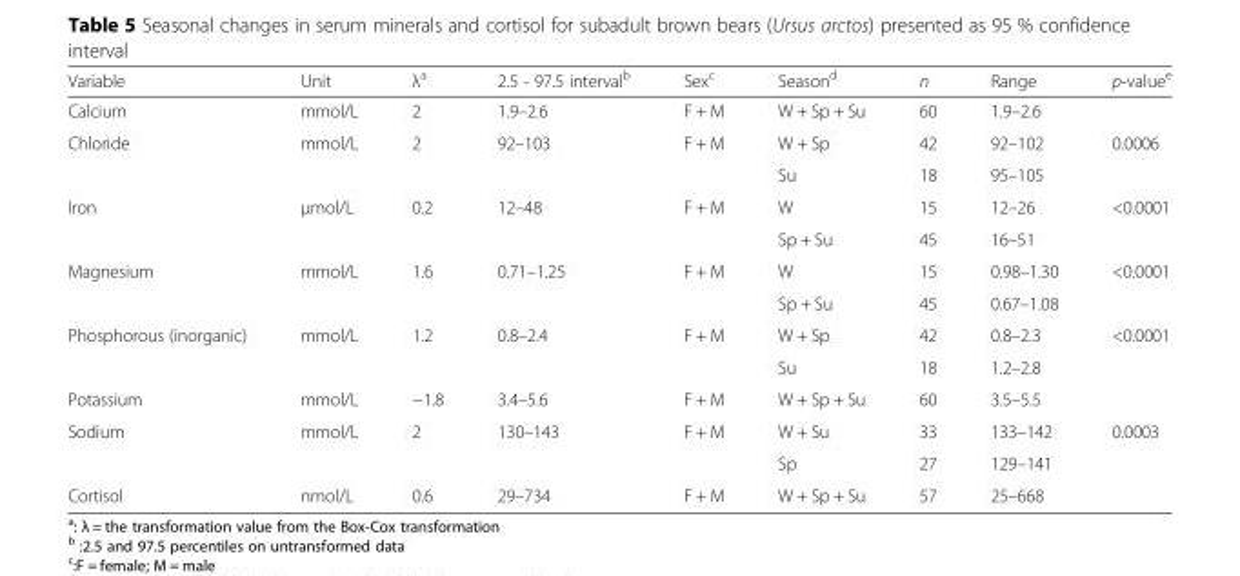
<table><thead><tr><td>Variable</td><td>Unit</td><td>λ<sup>a</sup></td><td>2.5 - 97.5 interval<sup>b</sup></td><td>Sex<sup>c</sup></td><td>Season<sup>d</sup></td><td>n</td><td>Range</td><td>p-value<sup>e</sup></td></tr></thead><tbody><tr><td>Calcium</td><td>mmol/L</td><td>2</td><td>1.9–2.6</td><td>F + M</td><td>W + Sp + Su</td><td>60</td><td>1.9–2.6</td><td></td></tr><tr><td rowspan="2">Chloride</td><td rowspan="2">mmol/L</td><td rowspan="2">2</td><td rowspan="2">92–103</td><td rowspan="2">F + M</td><td>W + Sp</td><td>42</td><td>92–102</td><td rowspan="2">0.0006</td></tr><tr><td>Su</td><td>18</td><td>95–105</td></tr><tr><td rowspan="2">Iron</td><td rowspan="2">μmol/L</td><td rowspan="2">0.2</td><td rowspan="2">12–48</td><td rowspan="2">F + M</td><td>W</td><td>15</td><td>12–26</td><td rowspan="2">&lt;0.0001</td></tr><tr><td>Sp + Su</td><td>45</td><td>16–51</td></tr><tr><td rowspan="2">Magnesium</td><td rowspan="2">mmol/L</td><td rowspan="2">1.6</td><td rowspan="2">0.71–1.25</td><td rowspan="2">F + M</td><td>W</td><td>15</td><td>0.98–1.30</td><td rowspan="2">&lt;0.0001</td></tr><tr><td>Sp + Su</td><td>45</td><td>0.67–1.08</td></tr><tr><td rowspan="2">Phosphorous (inorganic)</td><td rowspan="2">mmol/L</td><td rowspan="2">1.2</td><td rowspan="2">0.8–2.4</td><td rowspan="2">F + M</td><td>W + Sp</td><td>42</td><td>0.8–2.3</td><td rowspan="2">&lt;0.0001</td></tr><tr><td>Su</td><td>18</td><td>1.2–2.8</td></tr><tr><td>Potassium</td><td>mmol/L</td><td>−1.8</td><td>3.4–5.6</td><td>F + M</td><td>W + Sp + Su</td><td>60</td><td>3.5–5.5</td><td></td></tr><tr><td rowspan="2">Sodium</td><td rowspan="2">mmol/L</td><td rowspan="2">2</td><td rowspan="2">130–143</td><td rowspan="2">F + M</td><td>W + Su</td><td>33</td><td>133–142</td><td rowspan="2">0.0003</td></tr><tr><td>Sp</td><td>27</td><td>129–141</td></tr><tr><td>Cortisol</td><td>nmol/L</td><td>0.6</td><td>29–734</td><td>F + M</td><td>W + Sp + Su</td><td>57</td><td>25–668</td><td></td></tr></tbody></table>